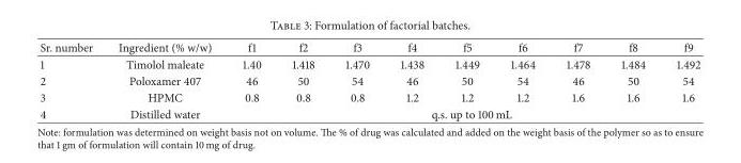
<table><thead><tr><td>Sr. number</td><td>Ingredient (% w/w)</td><td>f1</td><td>f2</td><td>f3</td><td>f4</td><td>f5</td><td>f6</td><td>f7</td><td>f8</td><td>f9</td></tr></thead><tbody><tr><td>1</td><td>Timolol maleate</td><td>1.40</td><td>1.418</td><td>1.470</td><td>1.438</td><td>1.449</td><td>1.464</td><td>1.478</td><td>1.484</td><td>1.492</td></tr><tr><td>2</td><td>Poloxamer 407</td><td>46</td><td>50</td><td>54</td><td>46</td><td>50</td><td>54</td><td>46</td><td>50</td><td>54</td></tr><tr><td>3</td><td>HPMC</td><td>0.8</td><td>0.8</td><td>0.8</td><td>1.2</td><td>1.2</td><td>1.2</td><td>1.6</td><td>1.6</td><td>1.6</td></tr><tr><td>4</td><td>Distilled water</td><td colspan="9">q.s. up to 100 mL</td></tr></tbody></table>